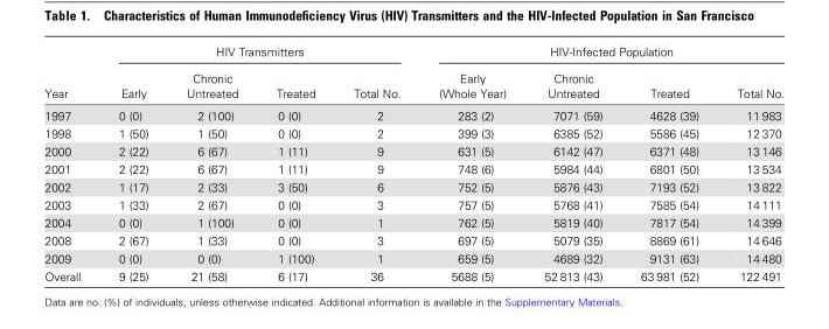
<table><thead><tr><td rowspan="3">Year</td><td colspan="4">HIV Transmitters</td><td colspan="4">HIV-Infected Population</td></tr><tr><td rowspan="2">Early</td><td rowspan="2">Chronic Untreated</td><td rowspan="2">Treated</td><td rowspan="2">Total No.</td><td rowspan="2">Early (Whole Year)</td><td rowspan="2">Chronic Untreated</td><td rowspan="2">Treated</td><td rowspan="2">Total No.</td></tr><tr></tr></thead><tbody><tr><td>1997</td><td>0 (0)</td><td>2 (100)</td><td>0 (0)</td><td>2</td><td>283 (2)</td><td>7071 (59)</td><td>4628 (39)</td><td>11 983</td></tr><tr><td>1998</td><td>1 (50)</td><td>1 (50)</td><td>0 (0)</td><td>2</td><td>399 (3)</td><td>6385 (52)</td><td>5586 (45)</td><td>12 370</td></tr><tr><td>2000</td><td>2 (22)</td><td>6 (67)</td><td>1 (11)</td><td>9</td><td>631 (5)</td><td>6142 (47)</td><td>6371 (48)</td><td>13 146</td></tr><tr><td>2001</td><td>2 (22)</td><td>6 (67)</td><td>1 (11)</td><td>9</td><td>748 (6)</td><td>5984 (44)</td><td>6801 (50)</td><td>13 534</td></tr><tr><td>2002</td><td>1 (17)</td><td>2 (33)</td><td>3 (50)</td><td>6</td><td>752 (5)</td><td>5876 (43)</td><td>7193 (52)</td><td>13 822</td></tr><tr><td>2003</td><td>1 (33)</td><td>2 (67)</td><td>0 (0)</td><td>3</td><td>757 (5)</td><td>5768 (41)</td><td>7585 (54)</td><td>14 111</td></tr><tr><td>2004</td><td>0 (0)</td><td>1 (100)</td><td>0 (0)</td><td>1</td><td>762 (5)</td><td>5819 (40)</td><td>7817 (54)</td><td>14 399</td></tr><tr><td>2008</td><td>2 (67)</td><td>1 (33)</td><td>0 (0)</td><td>3</td><td>697 (5)</td><td>5079 (35)</td><td>8869 (61)</td><td>14 646</td></tr><tr><td>2009</td><td>0 (0)</td><td>0 (0)</td><td>1 (100)</td><td>1</td><td>659 (5)</td><td>4689 (32)</td><td>9131 (63)</td><td>14 480</td></tr><tr><td>Overall</td><td>9 (25)</td><td>21 (58)</td><td>6 (17)</td><td>36</td><td>5688 (5)</td><td>52 813 (43)</td><td>63 981 (52)</td><td>122 491</td></tr></tbody></table>